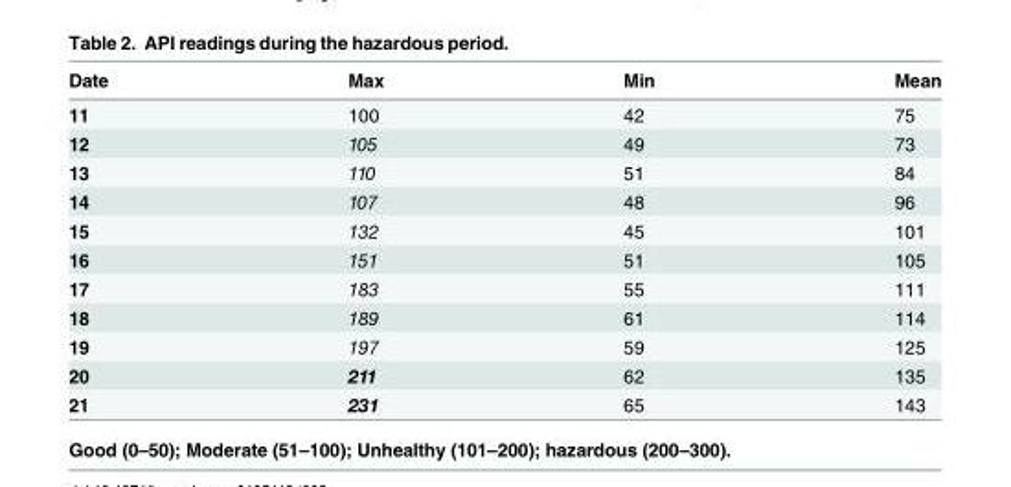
<table><thead><tr><td>Date</td><td>Max</td><td>Min</td><td>Mean</td></tr></thead><tbody><tr><td>11</td><td>100</td><td>42</td><td>75</td></tr><tr><td>12</td><td>105</td><td>49</td><td>73</td></tr><tr><td>13</td><td>110</td><td>51</td><td>84</td></tr><tr><td>14</td><td>107</td><td>48</td><td>96</td></tr><tr><td>15</td><td>132</td><td>45</td><td>101</td></tr><tr><td>16</td><td>151</td><td>51</td><td>105</td></tr><tr><td>17</td><td>183</td><td>55</td><td>111</td></tr><tr><td>18</td><td>189</td><td>61</td><td>114</td></tr><tr><td>19</td><td>197</td><td>59</td><td>125</td></tr><tr><td>20</td><td>211</td><td>62</td><td>135</td></tr><tr><td>21</td><td>231</td><td>65</td><td>143</td></tr></tbody></table>